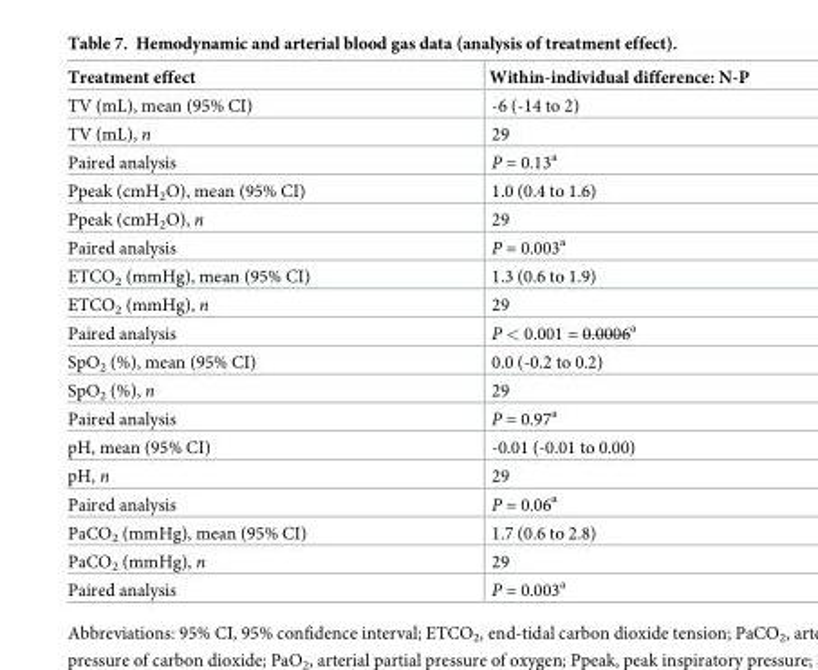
<table><thead><tr><td>Treatment effect</td><td>Within-individual difference: N-P</td></tr></thead><tbody><tr><td>TV (mL), mean (95% CI)</td><td>-6 (-14 to 2)</td></tr><tr><td>TV (mL), n</td><td>29</td></tr><tr><td>Paired analysis</td><td>P = 0.13<sup>a</sup></td></tr><tr><td>Ppeak (cmH<sub>2</sub>O), mean (95% CI)</td><td>1.0 (0.4 to 1.6)</td></tr><tr><td>Ppeak (cmH<sub>2</sub>O), n</td><td>29</td></tr><tr><td>Paired analysis</td><td>P = 0.003<sup>a</sup></td></tr><tr><td>ETCO<sub>2</sub> (mmHg), mean (95% CI)</td><td>1.3 (0.6 to 1.9)</td></tr><tr><td>ETCO<sub>2</sub> (mmHg), n</td><td>29</td></tr><tr><td>Paired analysis</td><td>P &lt; 0.001 = 0.0006<sup>a</sup></td></tr><tr><td>SpO<sub>2</sub> (%), mean (95% CI)</td><td>0.0 (-0.2 to 0.2)</td></tr><tr><td>SpO<sub>2</sub> (%), n</td><td>29</td></tr><tr><td>Paired analysis</td><td>P = 0.97<sup>a</sup></td></tr><tr><td>pH, mean (95% CI)</td><td>-0.01 (-0.01 to 0.00)</td></tr><tr><td>pH, n</td><td>29</td></tr><tr><td>Paired analysis</td><td>P = 0.06<sup>a</sup></td></tr><tr><td>PaCO<sub>2</sub> (mmHg), mean (95% CI)</td><td>1.7 (0.6 to 2.8)</td></tr><tr><td>PaCO<sub>2</sub> (mmHg), n</td><td>29</td></tr><tr><td>Paired analysis</td><td>P = 0.003<sup>a</sup></td></tr></tbody></table>